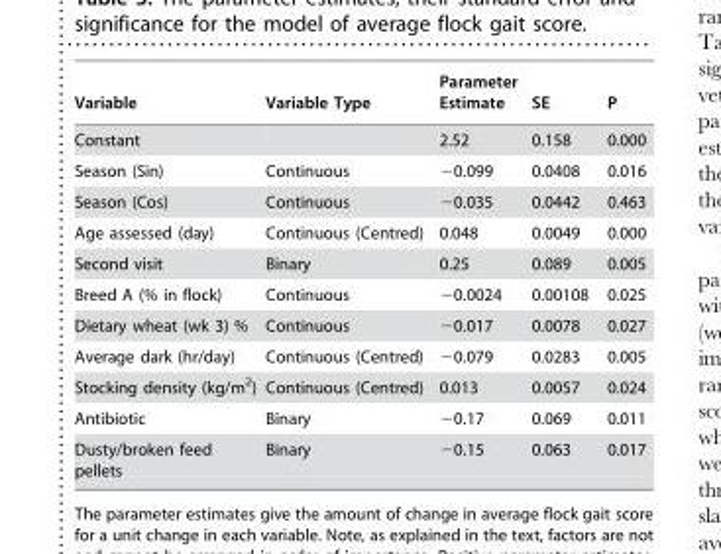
<table><thead><tr><td>Variable</td><td>Variable Type</td><td>Parameter Estimate</td><td>SE</td><td>P</td></tr></thead><tbody><tr><td>Constant</td><td></td><td>2.52</td><td>0.158</td><td>0.000</td></tr><tr><td>Season (Sin)</td><td>Continuous</td><td>−0.099</td><td>0.0408</td><td>0.016</td></tr><tr><td>Season (Cos)</td><td>Continuous</td><td>−0.035</td><td>0.0442</td><td>0.463</td></tr><tr><td>Age assessed (day)</td><td>Continuous (Centred)</td><td>0.048</td><td>0.0049</td><td>0.000</td></tr><tr><td>Second visit</td><td>Binary</td><td>0.25</td><td>0.089</td><td>0.005</td></tr><tr><td>Breed A (% in flock)</td><td>Continuous</td><td>−0.0024</td><td>0.00108</td><td>0.025</td></tr><tr><td>Dietary wheat (wk 3) %</td><td>Continuous</td><td>−0.017</td><td>0.0078</td><td>0.027</td></tr><tr><td>Average dark (hr/day)</td><td>Continuous (Centred)</td><td>−0.079</td><td>0.0283</td><td>0.005</td></tr><tr><td>Stocking density (kg/m<sup>2</sup>)</td><td>Continuous (Centred)</td><td>0.013</td><td>0.0057</td><td>0.024</td></tr><tr><td>Antibiotic</td><td>Binary</td><td>−0.17</td><td>0.069</td><td>0.011</td></tr><tr><td>Dusty/broken feed pellets</td><td>Binary</td><td>−0.15</td><td>0.063</td><td>0.017</td></tr></tbody></table>